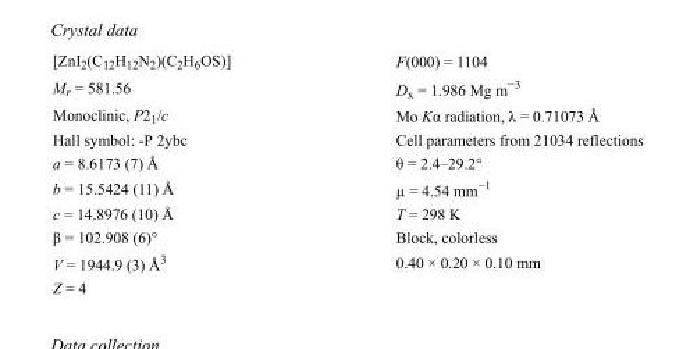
<table><tbody><tr><td>[ZnI<sub>2</sub>(C<sub>12</sub>H<sub>12</sub>N<sub>2</sub>)(C<sub>2</sub>H<sub>6</sub>OS)]</td><td>F(000) = 1104</td></tr><tr><td>M<sub>r</sub> = 581.56</td><td>D<sub>x</sub> = 1.986 Mg m<sup>−3</sup></td></tr><tr><td>Monoclinic, P2<sub>1</sub>/c</td><td>Mo Kα radiation, λ = 0.71073 Å</td></tr><tr><td>Hall symbol: -P 2ybc</td><td>Cell parameters from 21034 reflections</td></tr><tr><td>a = 8.6173 (7) Å</td><td>θ = 2.4–29.2°</td></tr><tr><td>b = 15.5424 (11) Å</td><td>µ = 4.54 mm<sup>−1</sup></td></tr><tr><td>c = 14.8976 (10) Å</td><td>T = 298 K</td></tr><tr><td>β = 102.908 (6)°</td><td>Block, colorless</td></tr><tr><td>V = 1944.9 (3) Å<sup>3</sup></td><td>0.40 × 0.20 × 0.10 mm</td></tr><tr><td>Z = 4</td><td></td></tr></tbody></table>